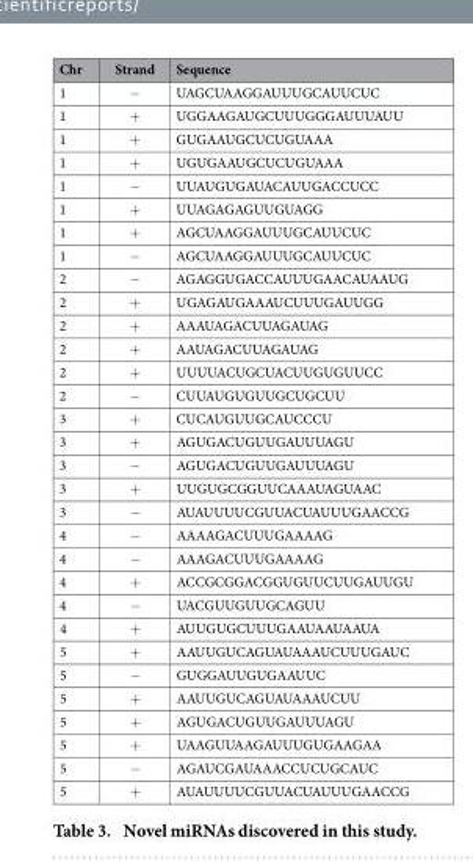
<table><thead><tr><td>Chr</td><td>Strand</td><td>Sequence</td></tr></thead><tbody><tr><td>1</td><td>−</td><td>UAGCUAAGGAUUUGCAUUCUC</td></tr><tr><td>1</td><td>+</td><td>UGGAAGAUGCUUUGGGAUUUAUU</td></tr><tr><td>1</td><td>+</td><td>GUGAAUGCUCUGUAAA</td></tr><tr><td>1</td><td>+</td><td>UGUGAAUGCUCUGUAAA</td></tr><tr><td>1</td><td>−</td><td>UUAUGUGAUACAUUGACCUCC</td></tr><tr><td>1</td><td>+</td><td>UUAGAGAGUUGUAGG</td></tr><tr><td>1</td><td>+</td><td>AGCUAAGGAUUUGCAUUCUC</td></tr><tr><td>1</td><td>−</td><td>AGCUAAGGAUUUGCAUUCUC</td></tr><tr><td>2</td><td>−</td><td>AGAGGUGACCAUUUGAACAUAAUG</td></tr><tr><td>2</td><td>+</td><td>UGAGAUGAAAUCUUUGAUUGG</td></tr><tr><td>2</td><td>+</td><td>AAAUAGACUUAGAUAG</td></tr><tr><td>2</td><td>+</td><td>AAUAGACUUAGAUAG</td></tr><tr><td>2</td><td>+</td><td>UUUUACUGCUACUUGUGUUCC</td></tr><tr><td>2</td><td>−</td><td>CUUAUGUGUUGCUGCUU</td></tr><tr><td>3</td><td>+</td><td>CUCAUGUUGCAUCCCU</td></tr><tr><td>3</td><td>+</td><td>AGUGACUGUUGAUUUAGU</td></tr><tr><td>3</td><td>−</td><td>AGUGACUGUUGAUUUAGU</td></tr><tr><td>3</td><td>+</td><td>UUGUGCGGUUCAAAUAGUAAC</td></tr><tr><td>3</td><td>−</td><td>AUAUUUUCGUUACUAUUUGAACCG</td></tr><tr><td>4</td><td>−</td><td>AAAAGACUUUGAAAAG</td></tr><tr><td>4</td><td>−</td><td>AAAGACUUUGAAAAG</td></tr><tr><td>4</td><td>+</td><td>ACCGCGGACGGUGUUCUUGAUUGU</td></tr><tr><td>4</td><td>−</td><td>UACGUUGUUGCAGUU</td></tr><tr><td>4</td><td>+</td><td>AUUGUGCUUUGAAUAAUAAUA</td></tr><tr><td>5</td><td>+</td><td>AAUUGUCAGUAUAAAUCUUUGAUC</td></tr><tr><td>5</td><td>−</td><td>GUGGAUUGUGAAUUC</td></tr><tr><td>5</td><td>+</td><td>AAUUGUCAGUAUAAAUCUU</td></tr><tr><td>5</td><td>+</td><td>AGUGACUGUUGAUUUAGU</td></tr><tr><td>5</td><td>+</td><td>UAAGUUAAGAUUUGUGAAGAA</td></tr><tr><td>5</td><td>−</td><td>AGAUCGAUAAACCUCUGCAUC</td></tr><tr><td>5</td><td>+</td><td>AUAUUUUCGUUACUAUUUGAACCG</td></tr></tbody></table>